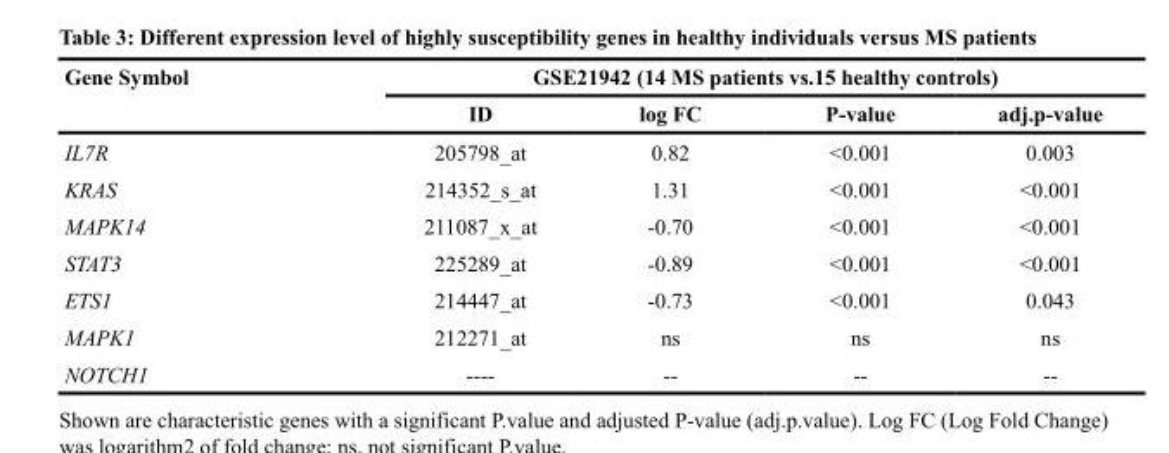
<table><thead><tr><td rowspan="2">Gene Symbol</td><td colspan="4">GSE21942 (14 MS patients vs.15 healthy controls)</td></tr><tr><td>ID</td><td>log FC</td><td>P-value</td><td>adj.p-value</td></tr></thead><tbody><tr><td>IL7R</td><td>205798_at</td><td>0.82</td><td>&lt;0.001</td><td>0.003</td></tr><tr><td>KRAS</td><td>214352_s_at</td><td>1.31</td><td>&lt;0.001</td><td>&lt;0.001</td></tr><tr><td>MAPK14</td><td>211087_x_at</td><td>-0.70</td><td>&lt;0.001</td><td>&lt;0.001</td></tr><tr><td>STAT3</td><td>225289_at</td><td>-0.89</td><td>&lt;0.001</td><td>&lt;0.001</td></tr><tr><td>ETS1</td><td>214447_at</td><td>-0.73</td><td>&lt;0.001</td><td>0.043</td></tr><tr><td>MAPK1</td><td>212271_at</td><td>ns</td><td>ns</td><td>ns</td></tr><tr><td>NOTCH1</td><td>----</td><td>--</td><td>--</td><td>--</td></tr></tbody></table>